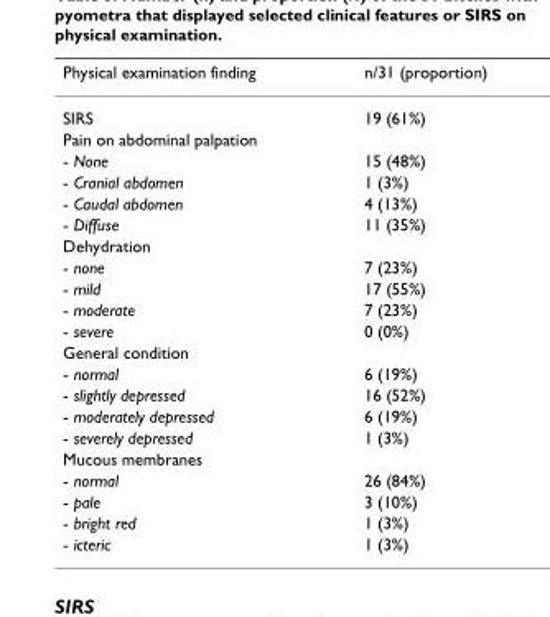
<table><thead><tr><td>Physical examination finding</td><td>n/31 (proportion)</td></tr></thead><tbody><tr><td>SIRS</td><td>19 (61%)</td></tr><tr><td colspan="2">Pain on abdominal palpation</td></tr><tr><td>- None</td><td>15 (48%)</td></tr><tr><td>- Cranial abdomen</td><td>1 (3%)</td></tr><tr><td>- Caudal abdomen</td><td>4 (13%)</td></tr><tr><td>- Diffuse</td><td>11 (35%)</td></tr><tr><td colspan="2">Dehydration</td></tr><tr><td>- none</td><td>7 (23%)</td></tr><tr><td>- mild</td><td>17 (55%)</td></tr><tr><td>- moderate</td><td>7 (23%)</td></tr><tr><td>- severe</td><td>0 (0%)</td></tr><tr><td colspan="2">General condition</td></tr><tr><td>- normal</td><td>6 (19%)</td></tr><tr><td>- slightly depressed</td><td>16 (52%)</td></tr><tr><td>- moderately depressed</td><td>6 (19%)</td></tr><tr><td>- severely depressed</td><td>1 (3%)</td></tr><tr><td colspan="2">Mucous membranes</td></tr><tr><td>- normal</td><td>26 (84%)</td></tr><tr><td>- pale</td><td>3 (10%)</td></tr><tr><td>- bright red</td><td>1 (3%)</td></tr><tr><td>- icteric</td><td>1 (3%)</td></tr></tbody></table>